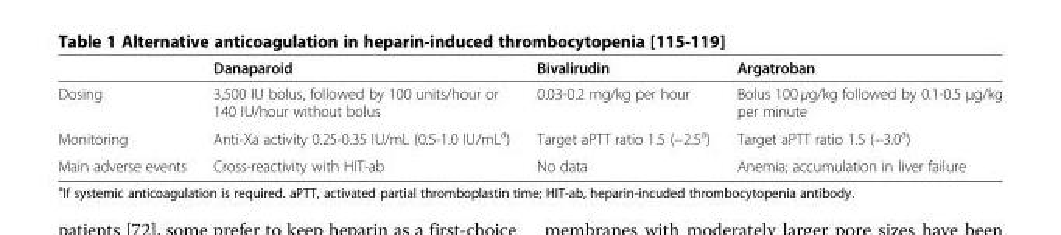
<table><thead><tr><td></td><td>Danaparoid</td><td>Bivalirudin</td><td>Argatroban</td></tr></thead><tbody><tr><td>Dosing</td><td>3,500 IU bolus, followed by 100 units/hour or 140 IU/hour without bolus</td><td>0.03-0.2 mg/kg per hour</td><td>Bolus 100 μg/kg followed by 0.1-0.5 μg/kg per minute</td></tr><tr><td>Monitoring</td><td>Anti-Xa activity 0.25-0.35 IU/mL (0.5-1.0 IU/mL<sup>a</sup>)</td><td>Target aPTT ratio 1.5 (−2.5<sup>a</sup>)</td><td>Target aPTT ratio 1.5 (−3.0<sup>a</sup>)</td></tr><tr><td>Main adverse events</td><td>Cross-reactivity with HIT-ab</td><td>No data</td><td>Anemia; accumulation in liver failure</td></tr></tbody></table>